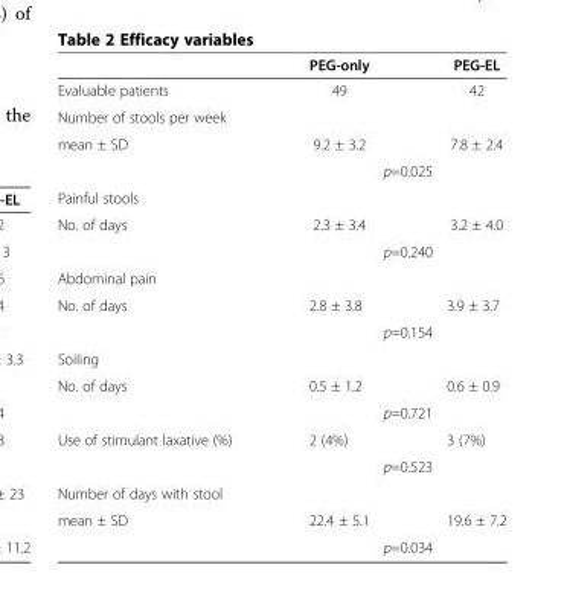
<table><thead><tr><td></td><td>PEG-only</td><td>PEG-EL</td></tr></thead><tbody><tr><td>Evaluable patients</td><td>49</td><td>42</td></tr><tr><td colspan="3">Number of stools per week</td></tr><tr><td rowspan="2">mean ± SD</td><td>9.2 ± 3.2</td><td>7.8 ± 2.4</td></tr><tr><td colspan="2">p=0.025</td></tr><tr><td colspan="3">Painful stools</td></tr><tr><td rowspan="2">No. of days</td><td>2.3 ± 3.4</td><td>3.2 ± 4.0</td></tr><tr><td colspan="2">p=0.240</td></tr><tr><td colspan="3">Abdominal pain</td></tr><tr><td rowspan="2">No. of days</td><td>2.8 ± 3.8</td><td>3.9 ± 3.7</td></tr><tr><td colspan="2">p=0.154</td></tr><tr><td colspan="3">Soiling</td></tr><tr><td rowspan="2">No. of days</td><td>0.5 ± 1.2</td><td>0.6 ± 0.9</td></tr><tr><td colspan="2">p=0.721</td></tr><tr><td rowspan="2">Use of stimulant laxative (%)</td><td>2 (4%)</td><td>3 (7%)</td></tr><tr><td colspan="2">p=0.523</td></tr><tr><td colspan="3">Number of days with stool</td></tr><tr><td rowspan="2">mean ± SD</td><td>22.4 ± 5.1</td><td>19.6 ± 7.2</td></tr><tr><td colspan="2">p=0.034</td></tr></tbody></table>